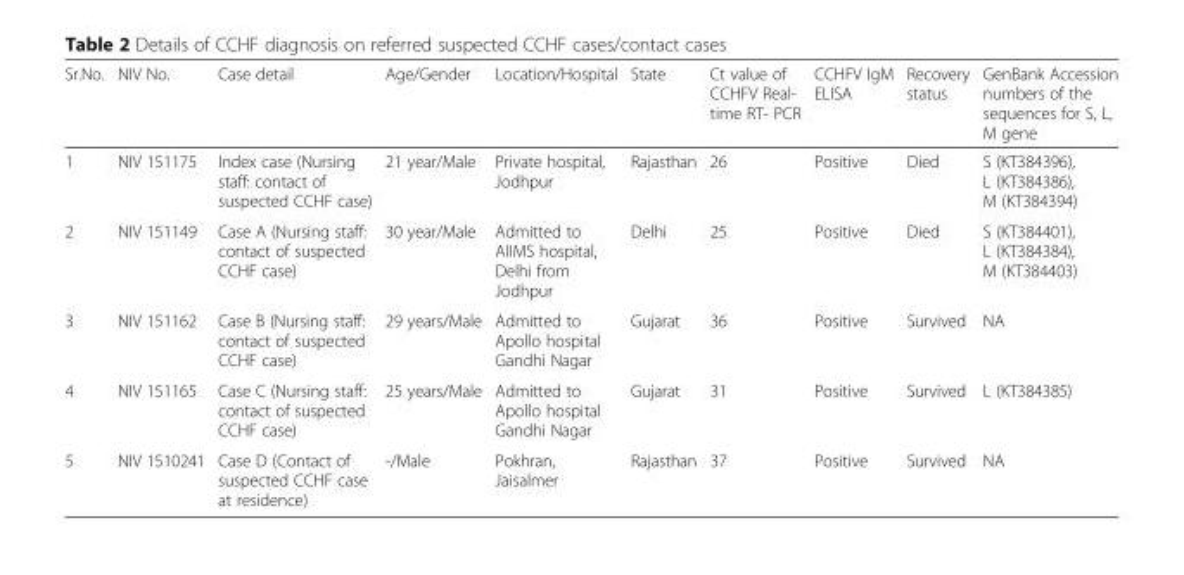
<table><thead><tr><td>Sr.No.</td><td>NIV No.</td><td>Case detail</td><td>Age/Gender</td><td>Location/Hospital</td><td>State</td><td>Ct value of CCHFV Real- time RT- PCR</td><td>CCHFV IgM ELISA</td><td>Recovery status</td><td>GenBank Accession numbers of the sequences for S, L, M gene</td></tr></thead><tbody><tr><td>1</td><td>NIV 151175</td><td>Index case (Nursing staff: contact of suspected CCHF case)</td><td>21 year/Male</td><td>Private hospital, Jodhpur</td><td>Rajasthan</td><td>26</td><td>Positive</td><td>Died</td><td>S (KT384396), L (KT384386), M (KT384394)</td></tr><tr><td>2</td><td>NIV 151149</td><td>Case A (Nursing staff: contact of suspected CCHF case)</td><td>30 year/Male</td><td>Admitted to AIIMS hospital, Delhi from Jodhpur</td><td>Delhi</td><td>25</td><td>Positive</td><td>Died</td><td>S (KT384401), L (KT384384), M (KT384403)</td></tr><tr><td>3</td><td>NIV 151162</td><td>Case B (Nursing staff: contact of suspected CCHF case)</td><td>29 years/Male</td><td>Admitted to Apollo hospital Gandhi Nagar</td><td>Gujarat</td><td>36</td><td>Positive</td><td>Survived</td><td>NA</td></tr><tr><td>4</td><td>NIV 151165</td><td>Case C (Nursing staff: contact of suspected CCHF case)</td><td>25 years/Male</td><td>Admitted to Apollo hospital Gandhi Nagar</td><td>Gujarat</td><td>31</td><td>Positive</td><td>Survived</td><td>L (KT384385)</td></tr><tr><td>5</td><td>NIV 1510241</td><td>Case D (Contact of suspected CCHF case at residence)</td><td>-/Male</td><td>Pokhran, Jaisalmer</td><td>Rajasthan</td><td>37</td><td>Positive</td><td>Survived</td><td>NA</td></tr></tbody></table>